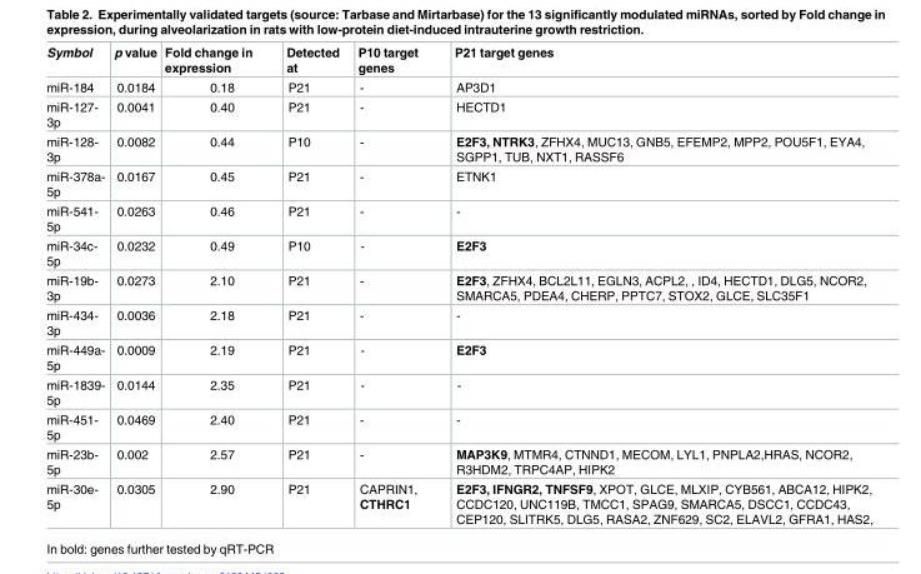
<table><thead><tr><td>Symbol</td><td>p value</td><td>Fold change in expression</td><td>Detected at</td><td>P10 target genes</td><td>P21 target genes</td></tr></thead><tbody><tr><td>miR-184</td><td>0.0184</td><td>0.18</td><td>P21</td><td>-</td><td>AP3D1</td></tr><tr><td>miR-127- 3p</td><td>0.0041</td><td>0.40</td><td>P21</td><td>-</td><td>HECTD1</td></tr><tr><td>miR-128- 3p</td><td>0.0082</td><td>0.44</td><td>P10</td><td>-</td><td>E2F3, NTRK3, ZFHX4, MUC13, GNB5, EFEMP2, MPP2, POU5F1, EYA4, SGPP1, TUB, NXT1, RASSF6</td></tr><tr><td>miR-378a- 5p</td><td>0.0167</td><td>0.45</td><td>P21</td><td>-</td><td>ETNK1</td></tr><tr><td>miR-541- 5p</td><td>0.0263</td><td>0.46</td><td>P21</td><td>-</td><td>-</td></tr><tr><td>miR-34c- 5p</td><td>0.0232</td><td>0.49</td><td>P10</td><td>-</td><td>E2F3</td></tr><tr><td>miR-19b- 3p</td><td>0.0273</td><td>2.10</td><td>P21</td><td>-</td><td>E2F3, ZFHX4, BCL2L11, EGLN3, ACPL2, , ID4, HECTD1, DLG5, NCOR2, SMARCA5, PDEA4, CHERP, PPTC7, STOX2, GLCE, SLC35F1</td></tr><tr><td>miR-434- 3p</td><td>0.0036</td><td>2.18</td><td>P21</td><td>-</td><td>-</td></tr><tr><td>miR-449a- 5p</td><td>0.0009</td><td>2.19</td><td>P21</td><td>-</td><td>E2F3</td></tr><tr><td>miR-1839- 5p</td><td>0.0144</td><td>2.35</td><td>P21</td><td>-</td><td>-</td></tr><tr><td>miR-451- 5p</td><td>0.0469</td><td>2.40</td><td>P21</td><td>-</td><td>-</td></tr><tr><td>miR-23b- 5p</td><td>0.002</td><td>2.57</td><td>P21</td><td>-</td><td>MAP3K9, MTMR4, CTNND1, MECOM, LYL1, PNPLA2,HRAS, NCOR2, R3HDM2, TRPC4AP, HIPK2</td></tr><tr><td>miR-30e- 5p</td><td>0.0305</td><td>2.90</td><td>P21</td><td>CAPRIN1, CTHRC1</td><td>E2F3, IFNGR2, TNFSF9, XPOT, GLCE, MLXIP, CYB561, ABCA12, HIPK2, CCDC120, UNC119B, TMCC1, SPAG9, SMARCA5, DSCC1, CCDC43, CEP120, SLITRK5, DLG5, RASA2, ZNF629, SC2, ELAVL2, GFRA1, HAS2,</td></tr></tbody></table>